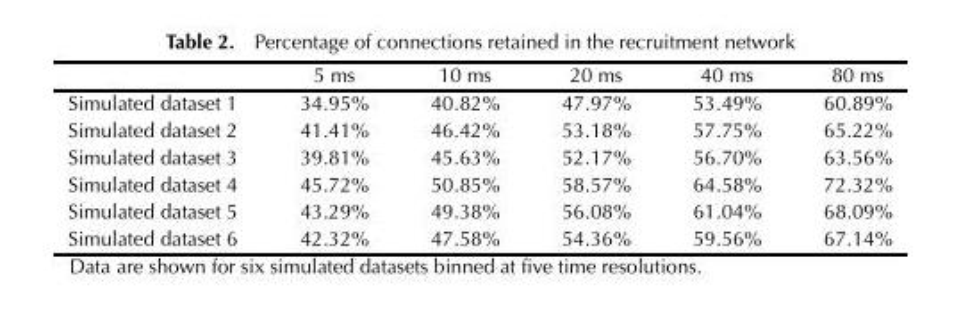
<table><thead><tr><td></td><td>5 ms</td><td>10 ms</td><td>20 ms</td><td>40 ms</td><td>80 ms</td></tr></thead><tbody><tr><td>Simulated dataset 1</td><td>34.95%</td><td>40.82%</td><td>47.97%</td><td>53.49%</td><td>60.89%</td></tr><tr><td>Simulated dataset 2</td><td>41.41%</td><td>46.42%</td><td>53.18%</td><td>57.75%</td><td>65.22%</td></tr><tr><td>Simulated dataset 3</td><td>39.81%</td><td>45.63%</td><td>52.17%</td><td>56.70%</td><td>63.56%</td></tr><tr><td>Simulated dataset 4</td><td>45.72%</td><td>50.85%</td><td>58.57%</td><td>64.58%</td><td>72.32%</td></tr><tr><td>Simulated dataset 5</td><td>43.29%</td><td>49.38%</td><td>56.08%</td><td>61.04%</td><td>68.09%</td></tr><tr><td>Simulated dataset 6</td><td>42.32%</td><td>47.58%</td><td>54.36%</td><td>59.56%</td><td>67.14%</td></tr></tbody></table>